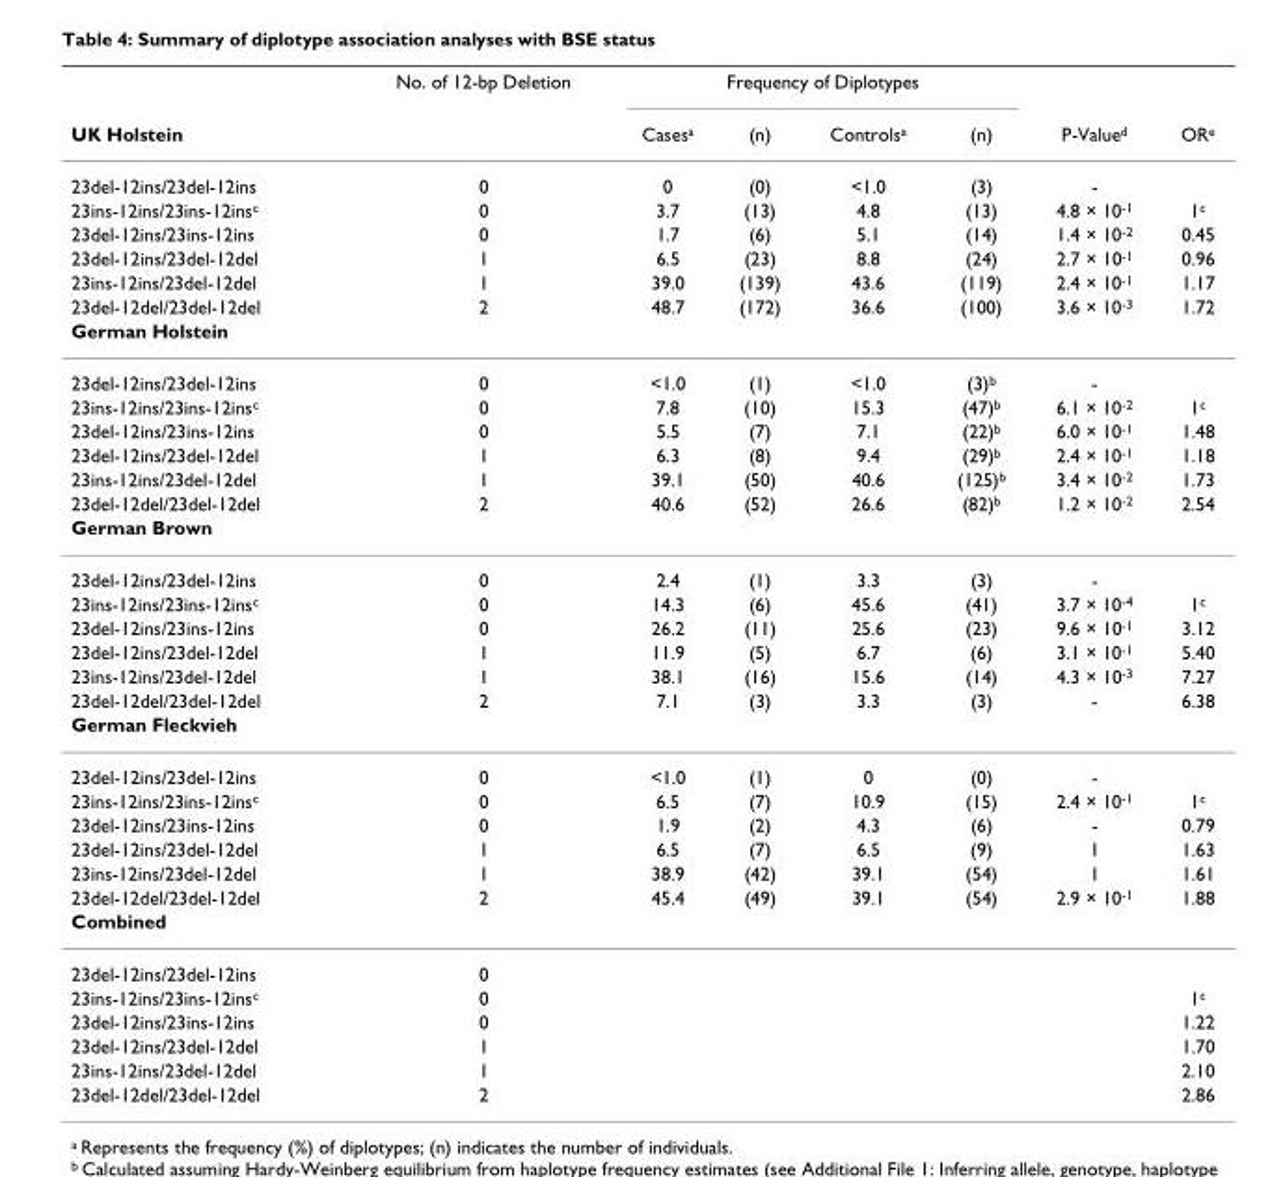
<table><thead><tr><td rowspan="2">UK Holstein</td><td rowspan="2">No. of 12-bp Deletion</td><td colspan="4">Frequency of Diplotypes</td><td rowspan="2">P-Valued</td><td rowspan="2">ORe</td></tr><tr><td>Casesa</td><td>(n)</td><td>Controlsa</td><td>(n)</td></tr></thead><tbody><tr><td>23del-12ins/23del-12ins</td><td>0</td><td>0</td><td>(0)</td><td>&lt;1.0</td><td>(3)</td><td>-</td><td></td></tr><tr><td>23ins-12ins/23ins-12insc</td><td>0</td><td>3.7</td><td>(13)</td><td>4.8</td><td>(13)</td><td>4.8 × 10-1</td><td>1c</td></tr><tr><td>23del-12ins/23ins-12ins</td><td>0</td><td>1.7</td><td>(6)</td><td>5.1</td><td>(14)</td><td>1.4 × 10-2</td><td>0.45</td></tr><tr><td>23del-12ins/23del-12del</td><td>1</td><td>6.5</td><td>(23)</td><td>8.8</td><td>(24)</td><td>2.7 × 10-1</td><td>0.96</td></tr><tr><td>23ins-12ins/23del-12del</td><td>1</td><td>39.0</td><td>(139)</td><td>43.6</td><td>(119)</td><td>2.4 × 10-1</td><td>1.17</td></tr><tr><td>23del-12del/23del-12del</td><td>2</td><td>48.7</td><td>(172)</td><td>36.6</td><td>(100)</td><td>3.6 × 10-3</td><td>1.72</td></tr><tr><td colspan="8">German Holstein</td></tr><tr><td>23del-12ins/23del-12ins</td><td>0</td><td>&lt;1.0</td><td>(1)</td><td>&lt;1.0</td><td>(3)b</td><td>-</td><td></td></tr><tr><td>23ins-12ins/23ins-12insc</td><td>0</td><td>7.8</td><td>(10)</td><td>15.3</td><td>(47)b</td><td>6.1 × 10-2</td><td>1c</td></tr><tr><td>23del-12ins/23ins-12ins</td><td>0</td><td>5.5</td><td>(7)</td><td>7.1</td><td>(22)b</td><td>6.0 × 10-1</td><td>1.48</td></tr><tr><td>23del-12ins/23del-12del</td><td>1</td><td>6.3</td><td>(8)</td><td>9.4</td><td>(29)b</td><td>2.4 × 10-1</td><td>1.18</td></tr><tr><td>23ins-12ins/23del-12del</td><td>1</td><td>39.1</td><td>(50)</td><td>40.6</td><td>(125)b</td><td>3.4 × 10-2</td><td>1.73</td></tr><tr><td>23del-12del/23del-12del</td><td>2</td><td>40.6</td><td>(52)</td><td>26.6</td><td>(82)b</td><td>1.2 × 10-2</td><td>2.54</td></tr><tr><td colspan="8">German Brown</td></tr><tr><td>23del-12ins/23del-12ins</td><td>0</td><td>2.4</td><td>(1)</td><td>3.3</td><td>(3)</td><td>-</td><td></td></tr><tr><td>23ins-12ins/23ins-12insc</td><td>0</td><td>14.3</td><td>(6)</td><td>45.6</td><td>(41)</td><td>3.7 × 10-4</td><td>1c</td></tr><tr><td>23del-12ins/23ins-12ins</td><td>0</td><td>26.2</td><td>(11)</td><td>25.6</td><td>(23)</td><td>9.6 × 10-1</td><td>3.12</td></tr><tr><td>23del-12ins/23del-12del</td><td>1</td><td>11.9</td><td>(5)</td><td>6.7</td><td>(6)</td><td>3.1 × 10-1</td><td>5.40</td></tr><tr><td>23ins-12ins/23del-12del</td><td>1</td><td>38.1</td><td>(16)</td><td>15.6</td><td>(14)</td><td>4.3 × 10-3</td><td>7.27</td></tr><tr><td>23del-12del/23del-12del</td><td>2</td><td>7.1</td><td>(3)</td><td>3.3</td><td>(3)</td><td>-</td><td>6.38</td></tr><tr><td colspan="8">German Fleckvieh</td></tr><tr><td>23del-12ins/23del-12ins</td><td>0</td><td>&lt;1.0</td><td>(1)</td><td>0</td><td>(0)</td><td>-</td><td></td></tr><tr><td>23ins-12ins/23ins-12insc</td><td>0</td><td>6.5</td><td>(7)</td><td>10.9</td><td>(15)</td><td>2.4 × 10-1</td><td>1c</td></tr><tr><td>23del-12ins/23ins-12ins</td><td>0</td><td>1.9</td><td>(2)</td><td>4.3</td><td>(6)</td><td>-</td><td>0.79</td></tr><tr><td>23del-12ins/23del-12del</td><td>1</td><td>6.5</td><td>(7)</td><td>6.5</td><td>(9)</td><td>1</td><td>1.63</td></tr><tr><td>23ins-12ins/23del-12del</td><td>1</td><td>38.9</td><td>(42)</td><td>39.1</td><td>(54)</td><td>1</td><td>1.61</td></tr><tr><td>23del-12del/23del-12del</td><td>2</td><td>45.4</td><td>(49)</td><td>39.1</td><td>(54)</td><td>2.9 × 10-1</td><td>1.88</td></tr><tr><td colspan="8">Combined</td></tr><tr><td>23del-12ins/23del-12ins</td><td>0</td><td></td><td></td><td></td><td></td><td></td><td></td></tr><tr><td>23ins-12ins/23ins-12insc</td><td>0</td><td></td><td></td><td></td><td></td><td></td><td>1c</td></tr><tr><td>23del-12ins/23ins-12ins</td><td>0</td><td></td><td></td><td></td><td></td><td></td><td>1.22</td></tr><tr><td>23del-12ins/23del-12del</td><td>1</td><td></td><td></td><td></td><td></td><td></td><td>1.70</td></tr><tr><td>23ins-12ins/23del-12del</td><td>1</td><td></td><td></td><td></td><td></td><td></td><td>2.10</td></tr><tr><td>23del-12del/23del-12del</td><td>2</td><td></td><td></td><td></td><td></td><td></td><td>2.86</td></tr></tbody></table>